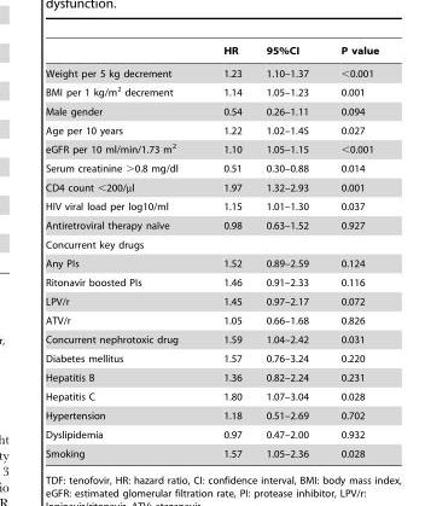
<table><thead><tr><td></td><td>HR</td><td>95%CI</td><td>P value</td></tr></thead><tbody><tr><td>Weight per 5 kg decrement</td><td>1.23</td><td>1.10–1.37</td><td>&lt;0.001</td></tr><tr><td>BMI per 1 kg/m<sup>2</sup> decrement</td><td>1.14</td><td>1.05–1.23</td><td>0.001</td></tr><tr><td>Male gender</td><td>0.54</td><td>0.26–1.11</td><td>0.094</td></tr><tr><td>Age per 10 years</td><td>1.22</td><td>1.02–1.45</td><td>0.027</td></tr><tr><td>eGFR per 10 ml/min/1.73 m<sup>2</sup></td><td>1.10</td><td>1.05–1.15</td><td>&lt;0.001</td></tr><tr><td>Serum creatinine &gt;0.8 mg/dl</td><td>0.51</td><td>0.30–0.88</td><td>0.014</td></tr><tr><td>CD4 count &lt;200/µl</td><td>1.97</td><td>1.32–2.93</td><td>0.001</td></tr><tr><td>HIV viral load per log10/ml</td><td>1.15</td><td>1.01–1.30</td><td>0.037</td></tr><tr><td>Antiretroviral therapy naı¨ve</td><td>0.98</td><td>0.63–1.52</td><td>0.927</td></tr><tr><td colspan="4">Concurrent key drugs</td></tr><tr><td>Any PIs</td><td>1.52</td><td>0.89–2.59</td><td>0.124</td></tr><tr><td>Ritonavir boosted PIs</td><td>1.46</td><td>0.91–2.33</td><td>0.116</td></tr><tr><td>LPV/r</td><td>1.45</td><td>0.97–2.17</td><td>0.072</td></tr><tr><td>ATV/r</td><td>1.05</td><td>0.66–1.68</td><td>0.826</td></tr><tr><td>Concurrent nephrotoxic drug</td><td>1.59</td><td>1.04–2.42</td><td>0.031</td></tr><tr><td>Diabetes mellitus</td><td>1.57</td><td>0.76–3.24</td><td>0.220</td></tr><tr><td>Hepatitis B</td><td>1.36</td><td>0.82–2.24</td><td>0.231</td></tr><tr><td>Hepatitis C</td><td>1.80</td><td>1.07–3.04</td><td>0.028</td></tr><tr><td>Hypertension</td><td>1.18</td><td>0.51–2.69</td><td>0.702</td></tr><tr><td>Dyslipidemia</td><td>0.97</td><td>0.47–2.00</td><td>0.932</td></tr><tr><td>Smoking</td><td>1.57</td><td>1.05–2.36</td><td>0.028</td></tr></tbody></table>